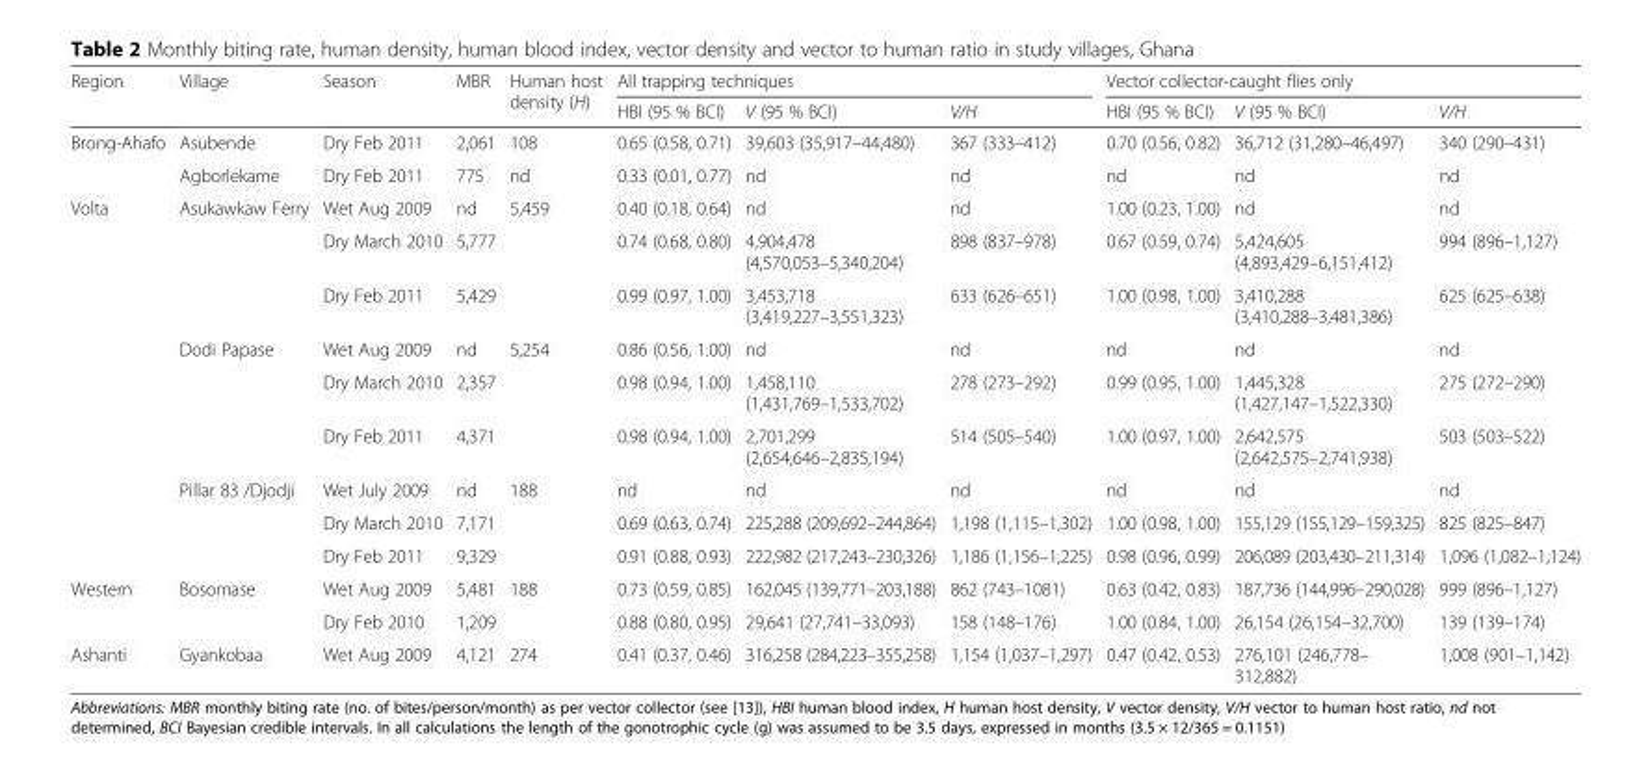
<table><thead><tr><td rowspan="2">Region</td><td rowspan="2">Village</td><td rowspan="2">Season</td><td rowspan="2">MBR</td><td rowspan="2">Human host density (H)</td><td colspan="3">All trapping techniques</td><td colspan="3">Vector collector-caught flies only</td></tr><tr><td>HBI (95 % BCI)</td><td>V (95 % BCI)</td><td>V/H</td><td>HBI (95 % BCI)</td><td>V (95 % BCI)</td><td>V/H</td></tr></thead><tbody><tr><td rowspan="2">Brong-Ahafo</td><td>Asubende</td><td>Dry Feb 2011</td><td>2,061</td><td>108</td><td>0.65 (0.58, 0.71)</td><td>39,603 (35,917–44,480)</td><td>367 (333–412)</td><td>0.70 (0.56, 0.82)</td><td>36,712 (31,280–46,497)</td><td>340 (290–431)</td></tr><tr><td>Agborlekame</td><td>Dry Feb 2011</td><td>775</td><td>nd</td><td>0.33 (0.01, 0.77)</td><td>nd</td><td>nd</td><td>nd</td><td>nd</td><td>nd</td></tr><tr><td rowspan="9">Volta</td><td rowspan="3">Asukawkaw Ferry</td><td>Wet Aug 2009</td><td>nd</td><td rowspan="3">5,459</td><td>0.40 (0.18, 0.64)</td><td>nd</td><td>nd</td><td>1.00 (0.23, 1.00)</td><td>nd</td><td>nd</td></tr><tr><td>Dry March 2010</td><td>5,777</td><td>0.74 (0.68, 0.80)</td><td>4,904,478 (4,570,053–5,340,204)</td><td>898 (837–978)</td><td>0.67 (0.59, 0.74)</td><td>5,424,605 (4,893,429–6,151,412)</td><td>994 (896–1,127)</td></tr><tr><td>Dry Feb 2011</td><td>5,429</td><td>0.99 (0.97, 1.00)</td><td>3,453,718 (3,419,227–3,551,323)</td><td>633 (626–651)</td><td>1.00 (0.98, 1.00)</td><td>3,410,288 (3,410,288–3,481,386)</td><td>625 (625–638)</td></tr><tr><td rowspan="3">Dodi Papase</td><td>Wet Aug 2009</td><td>nd</td><td rowspan="3">5,254</td><td>0.86 (0.56, 1.00)</td><td>nd</td><td>nd</td><td>nd</td><td>nd</td><td>nd</td></tr><tr><td>Dry March 2010</td><td>2,357</td><td>0.98 (0.94, 1.00)</td><td>1,458,110 (1,431,769–1,533,702)</td><td>278 (273–292)</td><td>0.99 (0.95, 1.00)</td><td>1,445,328 (1,427,147–1,522,330)</td><td>275 (272–290)</td></tr><tr><td>Dry Feb 2011</td><td>4,371</td><td>0.98 (0.94, 1.00)</td><td>2,701,299 (2,654,646–2,835,194)</td><td>514 (505–540)</td><td>1.00 (0.97, 1.00)</td><td>2,642,575 (2,642,575–2,741,938)</td><td>503 (503–522)</td></tr><tr><td rowspan="3">Pillar 83 /Djodji</td><td>Wet July 2009</td><td>nd</td><td rowspan="3">188</td><td>nd</td><td>nd</td><td>nd</td><td>nd</td><td>nd</td><td>nd</td></tr><tr><td>Dry March 2010</td><td>7,171</td><td>0.69 (0.63, 0.74)</td><td>225,288 (209,692–244,864)</td><td>1,198 (1,115–1,302)</td><td>1.00 (0.98, 1.00)</td><td>155,129 (155,129–159,325)</td><td>825 (825–847)</td></tr><tr><td>Dry Feb 2011</td><td>9,329</td><td>0.91 (0.88, 0.93)</td><td>222,982 (217,243–230,326)</td><td>1,186 (1,156–1,225)</td><td>0.98 (0.96, 0.99)</td><td>206,089 (203,430–211,314)</td><td>1,096 (1,082–1,124)</td></tr><tr><td rowspan="2">Western</td><td rowspan="2">Bosomase</td><td>Wet Aug 2009</td><td>5,481</td><td rowspan="2">188</td><td>0.73 (0.59, 0.85)</td><td>162,045 (139,771–203,188)</td><td>862 (743–1081)</td><td>0.63 (0.42, 0.83)</td><td>187,736 (144,996–290,028)</td><td>999 (896–1,127)</td></tr><tr><td>Dry Feb 2010</td><td>1,209</td><td>0.88 (0.80, 0.95)</td><td>29,641 (27,741–33,093)</td><td>158 (148–176)</td><td>1.00 (0.84, 1.00)</td><td>26,154 (26,154–32,700)</td><td>139 (139–174)</td></tr><tr><td>Ashanti</td><td>Gyankobaa</td><td>Wet Aug 2009</td><td>4,121</td><td>274</td><td>0.41 (0.37, 0.46)</td><td>316,258 (284,223–355,258)</td><td>1,154 (1,037–1,297)</td><td>0.47 (0.42, 0.53)</td><td>276,101 (246,778– 312,882)</td><td>1,008 (901–1,142)</td></tr></tbody></table>